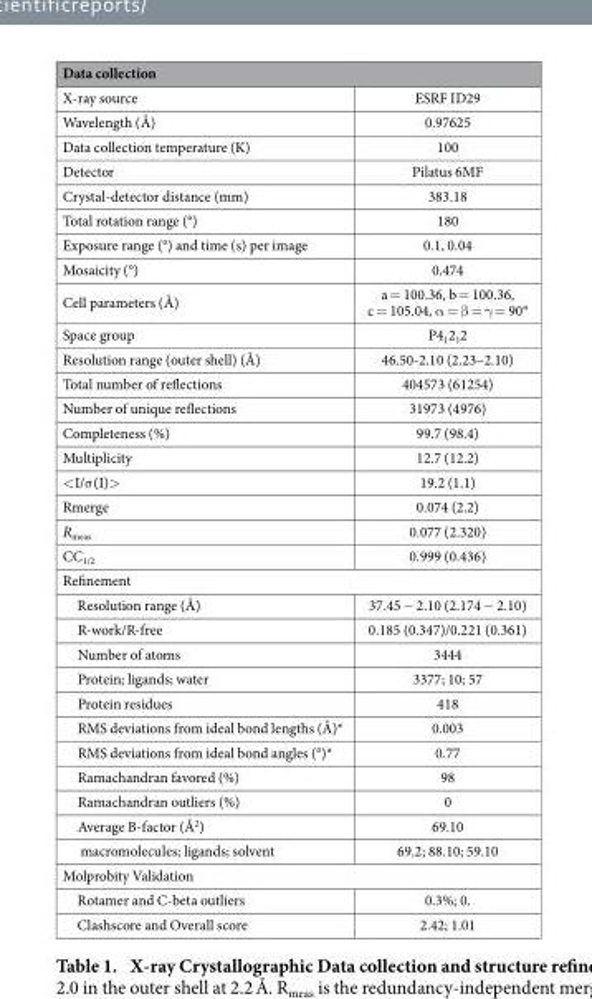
<table><thead><tr><td colspan="2">Data collection</td></tr><tr><td>X-ray source</td><td>ESRF ID29</td></tr></thead><tbody><tr><td>Wavelength (Å)</td><td>0.97625</td></tr><tr><td>Data collection temperature (K)</td><td>100</td></tr><tr><td>Detector</td><td>Pilatus 6MF</td></tr><tr><td>Crystal-detector distance (mm)</td><td>383.18</td></tr><tr><td>Total rotation range (°)</td><td>180</td></tr><tr><td>Exposure range (°) and time (s) per image</td><td>0.1, 0.04</td></tr><tr><td>Mosaicity (°)</td><td>0.474</td></tr><tr><td>Cell parameters (Å)</td><td>a = 100.36, b = 100.36, c = 105.04, α = β = γ = 90°</td></tr><tr><td>Space group</td><td>P4<sub>1</sub>2<sub>1</sub>2</td></tr><tr><td>Resolution range (outer shell) (Å)</td><td>46.50-2.10 (2.23–2.10)</td></tr><tr><td>Total number of reflections</td><td>404573 (61254)</td></tr><tr><td>Number of unique reflections</td><td>31973 (4976)</td></tr><tr><td>Completeness (%)</td><td>99.7 (98.4)</td></tr><tr><td>Multiplicity</td><td>12.7 (12.2)</td></tr><tr><td>&lt; I/σ (I)&gt;</td><td>19.2 (1.1)</td></tr><tr><td>Rmerge</td><td>0.074 (2.2)</td></tr><tr><td>R<sub>meas</sub></td><td>0.077 (2.320)</td></tr><tr><td>CC<sub>1/2</sub></td><td>0.999 (0.436)</td></tr><tr><td colspan="2">Refinement</td></tr><tr><td>Resolution range (Å)</td><td>37.45 − 2.10 (2.174 − 2.10)</td></tr><tr><td>R-work/R-free</td><td>0.185 (0.347)/0.221 (0.361)</td></tr><tr><td>Number of atoms</td><td>3444</td></tr><tr><td>Protein; ligands; water</td><td>3377; 10; 57</td></tr><tr><td>Protein residues</td><td>418</td></tr><tr><td>RMS deviations from ideal bond lengths (Å)*</td><td>0.003</td></tr><tr><td>RMS deviations from ideal bond angles (°)*</td><td>0.77</td></tr><tr><td>Ramachandran favored (%)</td><td>98</td></tr><tr><td>Ramachandran outliers (%)</td><td>0</td></tr><tr><td>Average B-factor (Å<sup>2</sup>)</td><td>69.10</td></tr><tr><td>macromolecules; ligands; solvent</td><td>69.2; 88.10; 59.10</td></tr><tr><td colspan="2">Molprobity Validation</td></tr><tr><td>Rotamer and C-beta outliers</td><td>0.3%; 0.</td></tr><tr><td>Clashscore and Overall score</td><td>2.42; 1.01</td></tr></tbody></table>